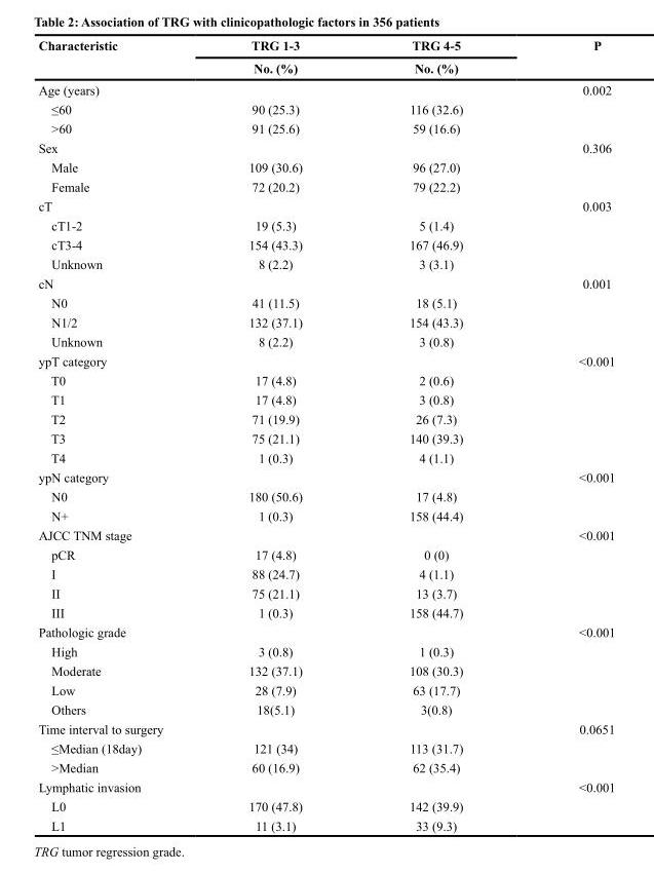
<table><thead><tr><td rowspan="2">Characteristic</td><td rowspan="2">TRG 1-3 No. (%)</td><td rowspan="2">TRG 4-5 No. (%)</td><td rowspan="2">P</td></tr><tr></tr></thead><tbody><tr><td>Age (years)</td><td></td><td></td><td>0.002</td></tr><tr><td>≤60</td><td>90 (25.3)</td><td>116 (32.6)</td><td></td></tr><tr><td>&gt;60</td><td>91 (25.6)</td><td>59 (16.6)</td><td></td></tr><tr><td>Sex</td><td></td><td></td><td>0.306</td></tr><tr><td>Male</td><td>109 (30.6)</td><td>96 (27.0)</td><td></td></tr><tr><td>Female</td><td>72 (20.2)</td><td>79 (22.2)</td><td></td></tr><tr><td>cT</td><td></td><td></td><td>0.003</td></tr><tr><td>cT1-2</td><td>19 (5.3)</td><td>5 (1.4)</td><td></td></tr><tr><td>cT3-4</td><td>154 (43.3)</td><td>167 (46.9)</td><td></td></tr><tr><td>Unknown</td><td>8 (2.2)</td><td>3 (3.1)</td><td></td></tr><tr><td>cN</td><td></td><td></td><td>0.001</td></tr><tr><td>N0</td><td>41 (11.5)</td><td>18 (5.1)</td><td></td></tr><tr><td>N1/2</td><td>132 (37.1)</td><td>154 (43.3)</td><td></td></tr><tr><td>Unknown</td><td>8 (2.2)</td><td>3 (0.8)</td><td></td></tr><tr><td>ypT category</td><td></td><td></td><td>&lt;0.001</td></tr><tr><td>T0</td><td>17 (4.8)</td><td>2 (0.6)</td><td></td></tr><tr><td>T1</td><td>17 (4.8)</td><td>3 (0.8)</td><td></td></tr><tr><td>T2</td><td>71 (19.9)</td><td>26 (7.3)</td><td></td></tr><tr><td>T3</td><td>75 (21.1)</td><td>140 (39.3)</td><td></td></tr><tr><td>T4</td><td>1 (0.3)</td><td>4 (1.1)</td><td></td></tr><tr><td>ypN category</td><td></td><td></td><td>&lt;0.001</td></tr><tr><td>N0</td><td>180 (50.6)</td><td>17 (4.8)</td><td></td></tr><tr><td>N+</td><td>1 (0.3)</td><td>158 (44.4)</td><td></td></tr><tr><td>AJCC TNM stage</td><td></td><td></td><td>&lt;0.001</td></tr><tr><td>pCR</td><td>17 (4.8)</td><td>0 (0)</td><td></td></tr><tr><td>I</td><td>88 (24.7)</td><td>4 (1.1)</td><td></td></tr><tr><td>II</td><td>75 (21.1)</td><td>13 (3.7)</td><td></td></tr><tr><td>III</td><td>1 (0.3)</td><td>158 (44.7)</td><td></td></tr><tr><td>Pathologic grade</td><td></td><td></td><td>&lt;0.001</td></tr><tr><td>High</td><td>3 (0.8)</td><td>1 (0.3)</td><td></td></tr><tr><td>Moderate</td><td>132 (37.1)</td><td>108 (30.3)</td><td></td></tr><tr><td>Low</td><td>28 (7.9)</td><td>63 (17.7)</td><td></td></tr><tr><td>Others</td><td>18(5.1)</td><td>3(0.8)</td><td></td></tr><tr><td>Time interval to surgery</td><td></td><td></td><td>0.0651</td></tr><tr><td>≤Median (18day)</td><td>121 (34)</td><td>113 (31.7)</td><td></td></tr><tr><td>&gt;Median</td><td>60 (16.9)</td><td>62 (35.4)</td><td></td></tr><tr><td>Lymphatic invasion</td><td></td><td></td><td>&lt;0.001</td></tr><tr><td>L0</td><td>170 (47.8)</td><td>142 (39.9)</td><td></td></tr><tr><td>L1</td><td>11 (3.1)</td><td>33 (9.3)</td><td></td></tr></tbody></table>